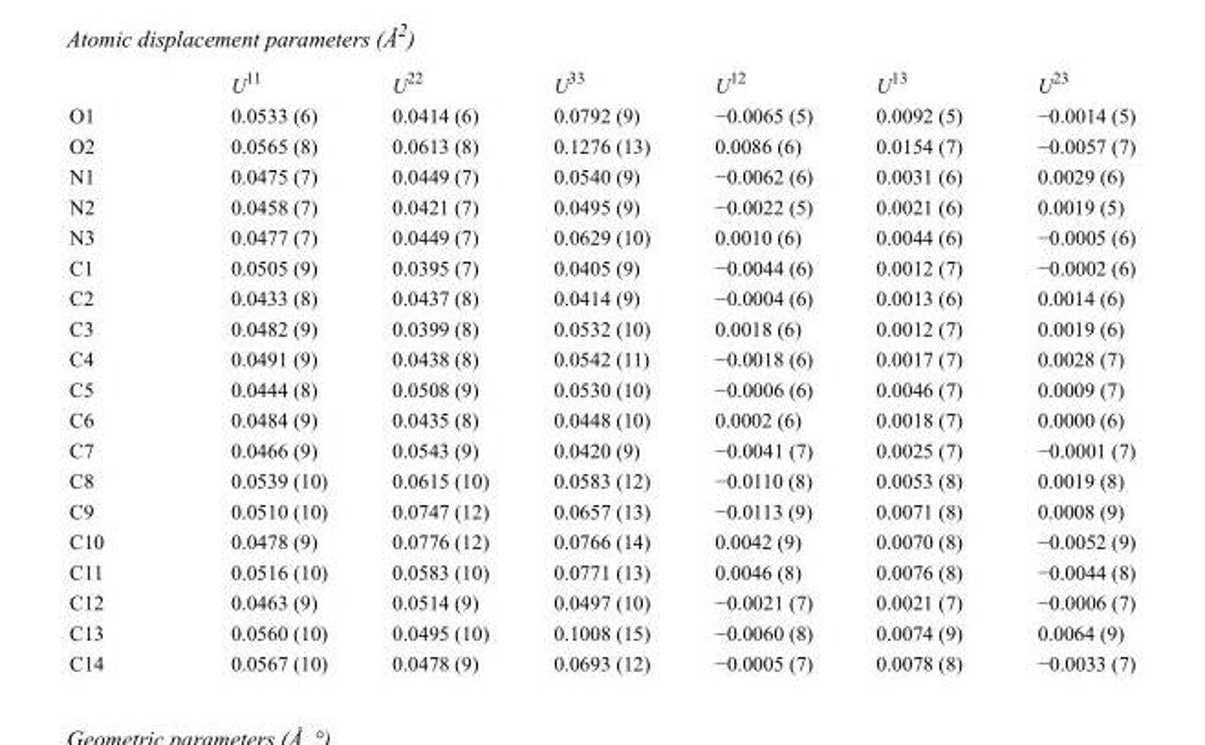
<table><thead><tr><td></td><td>U<sup>11</sup></td><td>U<sup>22</sup></td><td>U<sup>33</sup></td><td>U<sup>12</sup></td><td>U<sup>13</sup></td><td>U<sup>23</sup></td></tr></thead><tbody><tr><td>O1</td><td>0.0533 (6)</td><td>0.0414 (6)</td><td>0.0792 (9)</td><td>−0.0065 (5)</td><td>0.0092 (5)</td><td>−0.0014 (5)</td></tr><tr><td>O2</td><td>0.0565 (8)</td><td>0.0613 (8)</td><td>0.1276 (13)</td><td>0.0086 (6)</td><td>0.0154 (7)</td><td>−0.0057 (7)</td></tr><tr><td>N1</td><td>0.0475 (7)</td><td>0.0449 (7)</td><td>0.0540 (9)</td><td>−0.0062 (6)</td><td>0.0031 (6)</td><td>0.0029 (6)</td></tr><tr><td>N2</td><td>0.0458 (7)</td><td>0.0421 (7)</td><td>0.0495 (9)</td><td>−0.0022 (5)</td><td>0.0021 (6)</td><td>0.0019 (5)</td></tr><tr><td>N3</td><td>0.0477 (7)</td><td>0.0449 (7)</td><td>0.0629 (10)</td><td>0.0010 (6)</td><td>0.0044 (6)</td><td>−0.0005 (6)</td></tr><tr><td>C1</td><td>0.0505 (9)</td><td>0.0395 (7)</td><td>0.0405 (9)</td><td>−0.0044 (6)</td><td>0.0012 (7)</td><td>−0.0002 (6)</td></tr><tr><td>C2</td><td>0.0433 (8)</td><td>0.0437 (8)</td><td>0.0414 (9)</td><td>−0.0004 (6)</td><td>0.0013 (6)</td><td>0.0014 (6)</td></tr><tr><td>C3</td><td>0.0482 (9)</td><td>0.0399 (8)</td><td>0.0532 (10)</td><td>0.0018 (6)</td><td>0.0012 (7)</td><td>0.0019 (6)</td></tr><tr><td>C4</td><td>0.0491 (9)</td><td>0.0438 (8)</td><td>0.0542 (11)</td><td>−0.0018 (6)</td><td>0.0017 (7)</td><td>0.0028 (7)</td></tr><tr><td>C5</td><td>0.0444 (8)</td><td>0.0508 (9)</td><td>0.0530 (10)</td><td>−0.0006 (6)</td><td>0.0046 (7)</td><td>0.0009 (7)</td></tr><tr><td>C6</td><td>0.0484 (9)</td><td>0.0435 (8)</td><td>0.0448 (10)</td><td>0.0002 (6)</td><td>0.0018 (7)</td><td>0.0000 (6)</td></tr><tr><td>C7</td><td>0.0466 (9)</td><td>0.0543 (9)</td><td>0.0420 (9)</td><td>−0.0041 (7)</td><td>0.0025 (7)</td><td>−0.0001 (7)</td></tr><tr><td>C8</td><td>0.0539 (10)</td><td>0.0615 (10)</td><td>0.0583 (12)</td><td>−0.0110 (8)</td><td>0.0053 (8)</td><td>0.0019 (8)</td></tr><tr><td>C9</td><td>0.0510 (10)</td><td>0.0747 (12)</td><td>0.0657 (13)</td><td>−0.0113 (9)</td><td>0.0071 (8)</td><td>0.0008 (9)</td></tr><tr><td>C10</td><td>0.0478 (9)</td><td>0.0776 (12)</td><td>0.0766 (14)</td><td>0.0042 (9)</td><td>0.0070 (8)</td><td>−0.0052 (9)</td></tr><tr><td>C11</td><td>0.0516 (10)</td><td>0.0583 (10)</td><td>0.0771 (13)</td><td>0.0046 (8)</td><td>0.0076 (8)</td><td>−0.0044 (8)</td></tr><tr><td>C12</td><td>0.0463 (9)</td><td>0.0514 (9)</td><td>0.0497 (10)</td><td>−0.0021 (7)</td><td>0.0021 (7)</td><td>−0.0006 (7)</td></tr><tr><td>C13</td><td>0.0560 (10)</td><td>0.0495 (10)</td><td>0.1008 (15)</td><td>−0.0060 (8)</td><td>0.0074 (9)</td><td>0.0064 (9)</td></tr><tr><td>C14</td><td>0.0567 (10)</td><td>0.0478 (9)</td><td>0.0693 (12)</td><td>−0.0005 (7)</td><td>0.0078 (8)</td><td>−0.0033 (7)</td></tr></tbody></table>